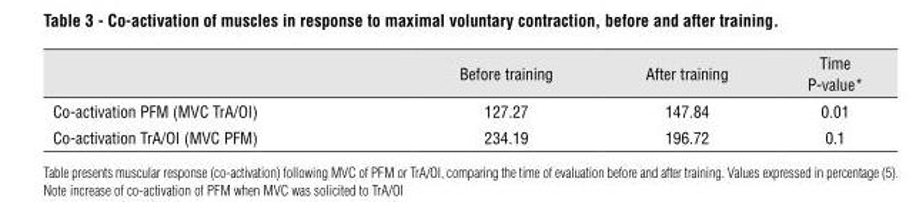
<table><thead><tr><td></td><td>Before training</td><td>After training</td><td>Time P-value*</td></tr></thead><tbody><tr><td>Co-activation PFM (MVC TrA/OI)</td><td>127.27</td><td>147.84</td><td>0.01</td></tr><tr><td>Co-activation TrA/OI (MVC PFM)</td><td>234.19</td><td>196.72</td><td>0.1</td></tr></tbody></table>